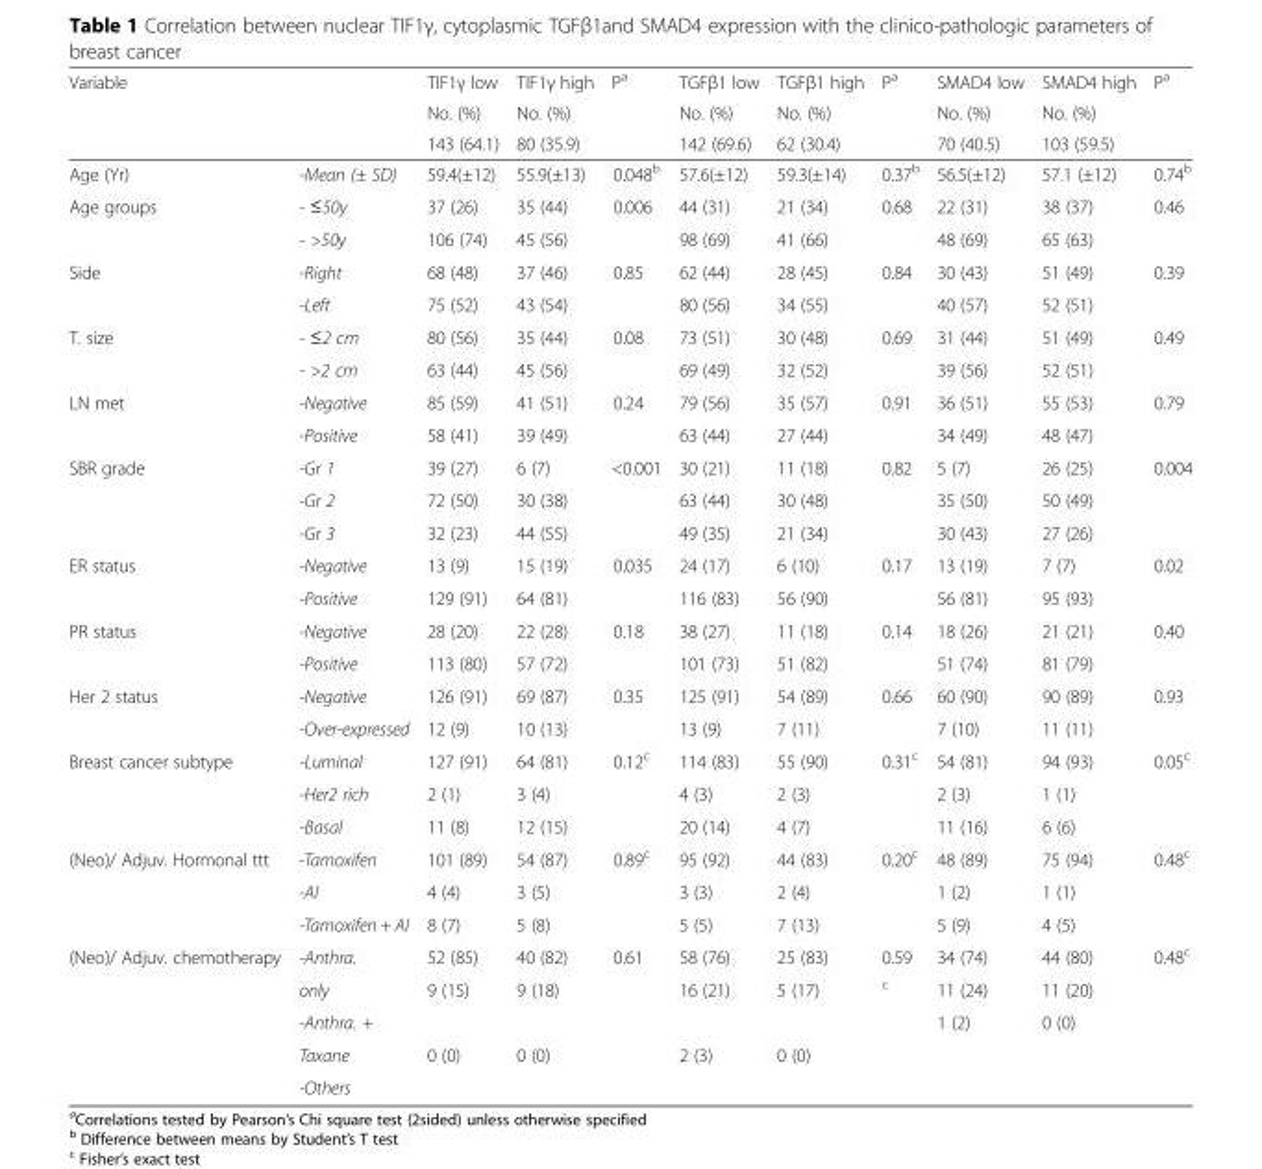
<table><thead><tr><td rowspan="3" colspan="2">Variable</td><td rowspan="4">TIF1γ low No. (%) 143 (64.1) 59.4(±12)</td><td rowspan="4">TIF1γ high No. (%) 80 (35.9) 55.9(±13)</td><td rowspan="4">P<sup>a</sup> 0.048<sup>b</sup></td><td rowspan="4">TGFβ1 low No. (%) 142 (69.6) 57.6(±12)</td><td rowspan="4">TGFβ1 high No. (%) 62 (30.4) 59.3(±14)</td><td rowspan="4">P<sup>a</sup> 0.37<sup>b</sup></td><td rowspan="4">SMAD4 low No. (%) 70 (40.5) 56.5(±12)</td><td rowspan="4">SMAD4 high No. (%) 103 (59.5) 57.1 (±12)</td><td rowspan="4">P<sup>a</sup> 0.74<sup>b</sup></td></tr><tr></tr><tr></tr><tr><td>Age (Yr)</td><td>-Mean (± SD)</td></tr></thead><tbody><tr><td rowspan="2">Age groups</td><td>- ≤50y</td><td>37 (26)</td><td>35 (44)</td><td rowspan="2">0.006</td><td>44 (31)</td><td>21 (34)</td><td rowspan="2">0.68</td><td>22 (31)</td><td>38 (37)</td><td rowspan="2">0.46</td></tr><tr><td>- &gt;50y</td><td>106 (74)</td><td>45 (56)</td><td>98 (69)</td><td>41 (66)</td><td>48 (69)</td><td>65 (63)</td></tr><tr><td rowspan="2">Side</td><td>-Right</td><td>68 (48)</td><td>37 (46)</td><td rowspan="2">0.85</td><td>62 (44)</td><td>28 (45)</td><td rowspan="2">0.84</td><td>30 (43)</td><td>51 (49)</td><td rowspan="2">0.39</td></tr><tr><td>-Left</td><td>75 (52)</td><td>43 (54)</td><td>80 (56)</td><td>34 (55)</td><td>40 (57)</td><td>52 (51)</td></tr><tr><td rowspan="2">T. size</td><td>- ≤2 cm</td><td>80 (56)</td><td>35 (44)</td><td rowspan="2">0.08</td><td>73 (51)</td><td>30 (48)</td><td rowspan="2">0.69</td><td>31 (44)</td><td>51 (49)</td><td rowspan="2">0.49</td></tr><tr><td>- &gt;2 cm</td><td>63 (44)</td><td>45 (56)</td><td>69 (49)</td><td>32 (52)</td><td>39 (56)</td><td>52 (51)</td></tr><tr><td rowspan="2">LN met</td><td>-Negative</td><td>85 (59)</td><td>41 (51)</td><td rowspan="2">0.24</td><td>79 (56)</td><td>35 (57)</td><td rowspan="2">0.91</td><td>36 (51)</td><td>55 (53)</td><td rowspan="2">0.79</td></tr><tr><td>-Positive</td><td>58 (41)</td><td>39 (49)</td><td>63 (44)</td><td>27 (44)</td><td>34 (49)</td><td>48 (47)</td></tr><tr><td rowspan="3">SBR grade</td><td>-Gr 1</td><td>39 (27)</td><td>6 (7)</td><td rowspan="3">&lt;0.001</td><td>30 (21)</td><td>11 (18)</td><td rowspan="3">0.82</td><td>5 (7)</td><td>26 (25)</td><td rowspan="3">0.004</td></tr><tr><td>-Gr 2</td><td>72 (50)</td><td>30 (38)</td><td>63 (44)</td><td>30 (48)</td><td>35 (50)</td><td>50 (49)</td></tr><tr><td>-Gr 3</td><td>32 (23)</td><td>44 (55)</td><td>49 (35)</td><td>21 (34)</td><td>30 (43)</td><td>27 (26)</td></tr><tr><td rowspan="2">ER status</td><td>-Negative</td><td>13 (9)</td><td>15 (19)</td><td rowspan="2">0.035</td><td>24 (17)</td><td>6 (10)</td><td rowspan="2">0.17</td><td>13 (19)</td><td>7 (7)</td><td rowspan="2">0.02</td></tr><tr><td>-Positive</td><td>129 (91)</td><td>64 (81)</td><td>116 (83)</td><td>56 (90)</td><td>56 (81)</td><td>95 (93)</td></tr><tr><td rowspan="2">PR status</td><td>-Negative</td><td>28 (20)</td><td>22 (28)</td><td rowspan="2">0.18</td><td>38 (27)</td><td>11 (18)</td><td rowspan="2">0.14</td><td>18 (26)</td><td>21 (21)</td><td rowspan="2">0.40</td></tr><tr><td>-Positive</td><td>113 (80)</td><td>57 (72)</td><td>101 (73)</td><td>51 (82)</td><td>51 (74)</td><td>81 (79)</td></tr><tr><td rowspan="2">Her 2 status</td><td>-Negative</td><td>126 (91)</td><td>69 (87)</td><td rowspan="2">0.35</td><td>125 (91)</td><td>54 (89)</td><td rowspan="2">0.66</td><td>60 (90)</td><td>90 (89)</td><td rowspan="2">0.93</td></tr><tr><td>-Over-expressed</td><td>12 (9)</td><td>10 (13)</td><td>13 (9)</td><td>7 (11)</td><td>7 (10)</td><td>11 (11)</td></tr><tr><td rowspan="3">Breast cancer subtype</td><td>-Luminal</td><td>127 (91)</td><td>64 (81)</td><td rowspan="3">0.12<sup>c</sup></td><td>114 (83)</td><td>55 (90)</td><td rowspan="3">0.31<sup>c</sup></td><td>54 (81)</td><td>94 (93)</td><td rowspan="3">0.05<sup>c</sup></td></tr><tr><td>-Her2 rich</td><td>2 (1)</td><td>3 (4)</td><td>4 (3)</td><td>2 (3)</td><td>2 (3)</td><td>1 (1)</td></tr><tr><td>-Basal</td><td>11 (8)</td><td>12 (15)</td><td>20 (14)</td><td>4 (7)</td><td>11 (16)</td><td>6 (6)</td></tr><tr><td rowspan="3">(Neo)/ Adjuv. Hormonal ttt</td><td>-Tamoxifen</td><td>101 (89)</td><td>54 (87)</td><td rowspan="3">0.89<sup>c</sup></td><td>95 (92)</td><td>44 (83)</td><td rowspan="3">0.20<sup>c</sup></td><td>48 (89)</td><td>75 (94)</td><td rowspan="3">0.48<sup>c</sup></td></tr><tr><td>-AI</td><td>4 (4)</td><td>3 (5)</td><td>3 (3)</td><td>2 (4)</td><td>1 (2)</td><td>1 (1)</td></tr><tr><td>-Tamoxifen + AI</td><td>8 (7)</td><td>5 (8)</td><td>5 (5)</td><td>7 (13)</td><td>5 (9)</td><td>4 (5)</td></tr><tr><td rowspan="5">(Neo)/ Adjuv. chemotherapy</td><td>-Anthra.</td><td>52 (85)</td><td>40 (82)</td><td>0.61</td><td>58 (76)</td><td>25 (83)</td><td>0.59</td><td>34 (74)</td><td>44 (80)</td><td rowspan="5">0.48<sup>c</sup></td></tr><tr><td>only</td><td>9 (15)</td><td>9 (18)</td><td></td><td>16 (21)</td><td>5 (17)</td><td><sup>c</sup></td><td>11 (24)</td><td>11 (20)</td></tr><tr><td>-Anthra. +</td><td></td><td></td><td></td><td></td><td></td><td></td><td>1 (2)</td><td>0 (0)</td></tr><tr><td>Taxane</td><td>0 (0)</td><td>0 (0)</td><td></td><td>2 (3)</td><td>0 (0)</td><td></td><td></td><td></td></tr><tr><td>-Others</td><td></td><td></td><td></td><td></td><td></td><td></td><td></td><td></td></tr></tbody></table>